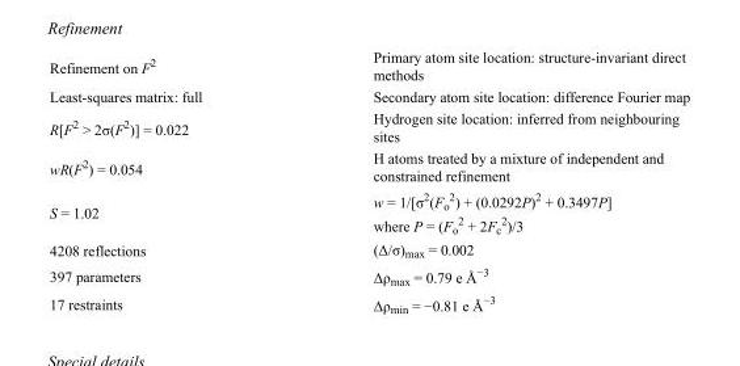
<table><tbody><tr><td>Refinement on F<sup>2</sup></td><td>Primary atom site location: structure-invariant direct methods</td></tr><tr><td>Least-squares matrix: full</td><td>Secondary atom site location: difference Fourier map</td></tr><tr><td>R[F<sup>2</sup> &gt; 2σ(F<sup>2</sup>)] = 0.022</td><td>Hydrogen site location: inferred from neighbouring sites</td></tr><tr><td>wR(F<sup>2</sup>) = 0.054</td><td>H atoms treated by a mixture of independent and constrained refinement</td></tr><tr><td>S = 1.02</td><td>w = 1/[σ<sup>2</sup>(F<sub>o</sub> <sup>2</sup>) + (0.0292P)<sup>2</sup> + 0.3497P] where P = (F<sub>o</sub> <sup>2</sup> + 2F<sub>c</sub> <sup>2</sup>)/3</td></tr><tr><td>4208 reflections</td><td>(Δ/σ)<sub>max</sub> = 0.002</td></tr><tr><td>397 parameters</td><td>Δρ<sub>max</sub> = 0.79 e Å<sup>−3</sup></td></tr><tr><td>17 restraints</td><td>Δρ<sub>min</sub> = −0.81 e Å<sup>−3</sup></td></tr></tbody></table>